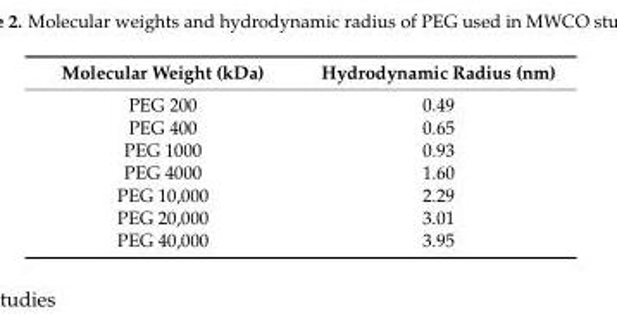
<table><thead><tr><td>Molecular Weight (kDa)</td><td>Hydrodynamic Radius (nm)</td></tr></thead><tbody><tr><td>PEG 200</td><td>0.49</td></tr><tr><td>PEG 400</td><td>0.65</td></tr><tr><td>PEG 1000</td><td>0.93</td></tr><tr><td>PEG 4000</td><td>1.60</td></tr><tr><td>PEG 10,000</td><td>2.29</td></tr><tr><td>PEG 20,000</td><td>3.01</td></tr><tr><td>PEG 40,000</td><td>3.95</td></tr></tbody></table>